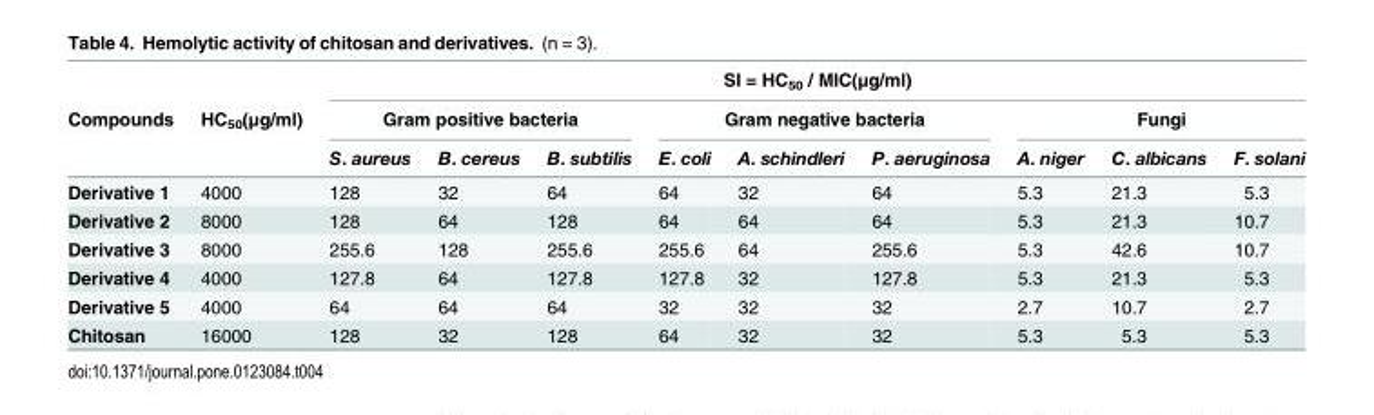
<table><thead><tr><td rowspan="3">Compounds</td><td rowspan="3">HC<sub>50</sub>(μg/ml)</td><td colspan="9">SI = HC<sub>50</sub> / MIC(μg/ml)</td></tr><tr><td colspan="3">Gram positive bacteria</td><td colspan="3">Gram negative bacteria</td><td colspan="3">Fungi</td></tr><tr><td>S. aureus</td><td>B. cereus</td><td>B. subtilis</td><td>E. coli</td><td>A. schindleri</td><td>P. aeruginosa</td><td>A. niger</td><td>C. albicans</td><td>F. solani</td></tr></thead><tbody><tr><td>Derivative 1</td><td>4000</td><td>128</td><td>32</td><td>64</td><td>64</td><td>32</td><td>64</td><td>5.3</td><td>21.3</td><td>5.3</td></tr><tr><td>Derivative 2</td><td>8000</td><td>128</td><td>64</td><td>128</td><td>64</td><td>64</td><td>64</td><td>5.3</td><td>21.3</td><td>10.7</td></tr><tr><td>Derivative 3</td><td>8000</td><td>255.6</td><td>128</td><td>255.6</td><td>255.6</td><td>64</td><td>255.6</td><td>5.3</td><td>42.6</td><td>10.7</td></tr><tr><td>Derivative 4</td><td>4000</td><td>127.8</td><td>64</td><td>127.8</td><td>127.8</td><td>32</td><td>127.8</td><td>5.3</td><td>21.3</td><td>5.3</td></tr><tr><td>Derivative 5</td><td>4000</td><td>64</td><td>64</td><td>64</td><td>32</td><td>32</td><td>32</td><td>2.7</td><td>10.7</td><td>2.7</td></tr><tr><td>Chitosan</td><td>16000</td><td>128</td><td>32</td><td>128</td><td>64</td><td>32</td><td>32</td><td>5.3</td><td>5.3</td><td>5.3</td></tr></tbody></table>